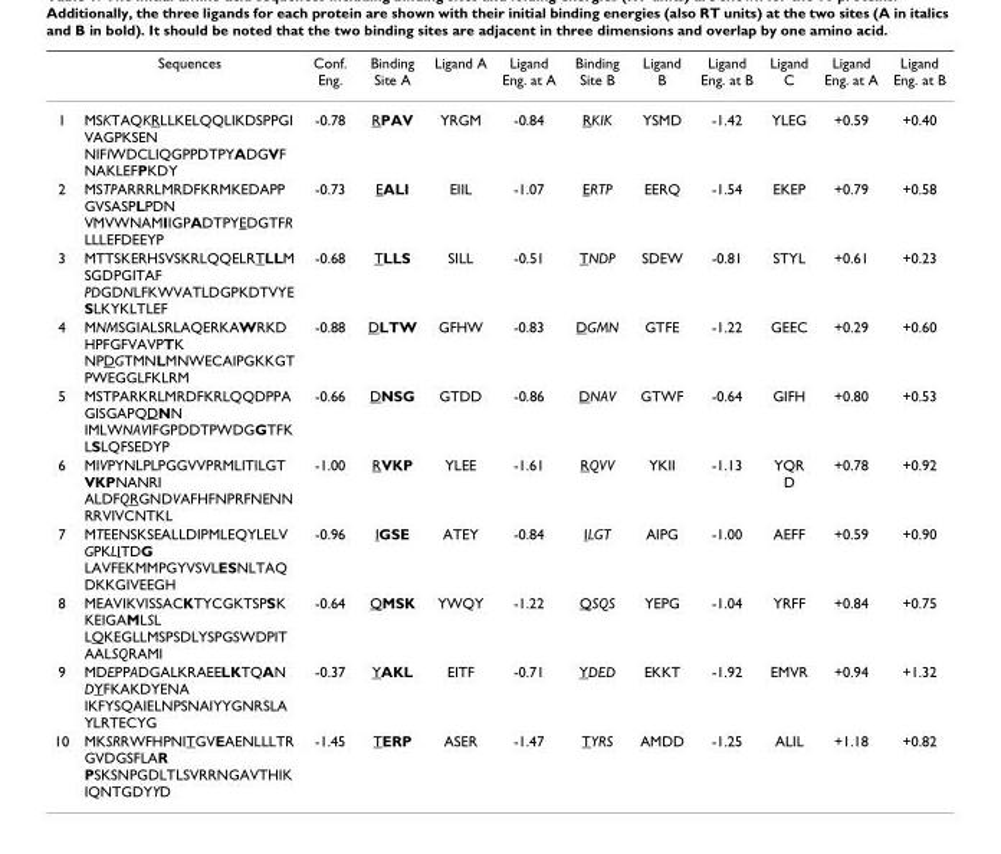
<table><thead><tr><td></td><td>Sequences</td><td>Conf. Eng.</td><td>Binding Site A</td><td>Ligand A</td><td>Ligand Eng. at A</td><td>Binding Site B</td><td>Ligand B</td><td>Ligand Eng. at B</td><td>Ligand C</td><td>Ligand Eng. at A</td><td>Ligand Eng. at B</td></tr></thead><tbody><tr><td>1</td><td>MSKTAQKRLLKELQQLIKDSPPGI VAGPKSEN NIFIWDCLIQGPPDTPYADGVF NAKLEFPKDY</td><td>-0.78</td><td>RPAV</td><td>YRGM</td><td>-0.84</td><td>RKIK</td><td>YSMD</td><td>-1.42</td><td>YLEG</td><td>+0.59</td><td>+0.40</td></tr><tr><td>2</td><td>MSTPARRRLMRDFKRMKEDAPP GVSASPLPDN VMVWNAMIIGPADTPYEDGTFR LLLEFDEEYP</td><td>-0.73</td><td>EALI</td><td>EIIL</td><td>-1.07</td><td>ERTP</td><td>EERQ</td><td>-1.54</td><td>EKEP</td><td>+0.79</td><td>+0.58</td></tr><tr><td>3</td><td>MTTSKERHSVSKRLQQELRTLLM SGDPGITAF PDGDNLFKWVATLDGPKDTVYE SLKYKLTLEF</td><td>-0.68</td><td>TLLS</td><td>SILL</td><td>-0.51</td><td>TNDP</td><td>SDEW</td><td>-0.81</td><td>STYL</td><td>+0.61</td><td>+0.23</td></tr><tr><td>4</td><td>MNMSGIALSRLAQERKAWRKD HPFGFVAVPTK NPDGTMNLMNWECAIPGKKGT PWEGGLFKLRM</td><td>-0.88</td><td>DLTW</td><td>GFHW</td><td>-0.83</td><td>DGMN</td><td>GTFE</td><td>-1.22</td><td>GEEC</td><td>+0.29</td><td>+0.60</td></tr><tr><td>5</td><td>MSTPARKRLMRDFKRLQQDPPA GISGAPQDNN IMLWNAVIFGPDDTPWDGGTFK LSLQFSEDYP</td><td>-0.66</td><td>DNSG</td><td>GTDD</td><td>-0.86</td><td>DNAV</td><td>GTWF</td><td>-0.64</td><td>GIFH</td><td>+0.80</td><td>+0.53</td></tr><tr><td>6</td><td>MIVPYNLPLPGGVVPRMLITILGT VKPNANRI ALDFQRGNDVAFHFNPRFNENN RRVIVCNTKL</td><td>-1.00</td><td>RVKP</td><td>YLEE</td><td>-1.61</td><td>RQVV</td><td>YKII</td><td>-1.13</td><td>YQR D</td><td>+0.78</td><td>+0.92</td></tr><tr><td>7</td><td>MTEENSKSEALLDIPMLEQYLELV GPKLITDG LAVFEKMMPGYVSVLESNLTAQ DKKGIVEEGH</td><td>-0.96</td><td>IGSE</td><td>ATEY</td><td>-0.84</td><td>ILGT</td><td>AIPG</td><td>-1.00</td><td>AEFF</td><td>+0.59</td><td>+0.90</td></tr><tr><td>8</td><td>MEAVIKVISSACKTYCGKTSPSK KEIGAMLSL LQKEGLLMSPSDLYSPGSWDPIT AALSQRAMI</td><td>-0.64</td><td>QMSK</td><td>YWQY</td><td>-1.22</td><td>QSQS</td><td>YEPG</td><td>-1.04</td><td>YRFF</td><td>+0.84</td><td>+0.75</td></tr><tr><td>9</td><td>MDEPPADGALKRAEELKTQAN DYFKAKDYENA IKFYSQAIELNPSNAIYYGNRSLA YLRTECYG</td><td>-0.37</td><td>YAKL</td><td>EITF</td><td>-0.71</td><td>YDED</td><td>EKKT</td><td>-1.92</td><td>EMVR</td><td>+0.94</td><td>+1.32</td></tr><tr><td>10</td><td>MKSRRWFHPNITGVEAENLLLTR GVDGSFLAR PSKSNPGDLTLSVRRNGAVTHIK IQNTGDYYD</td><td>-1.45</td><td>TERP</td><td>ASER</td><td>-1.47</td><td>TYRS</td><td>AMDD</td><td>-1.25</td><td>ALIL</td><td>+1.18</td><td>+0.82</td></tr></tbody></table>